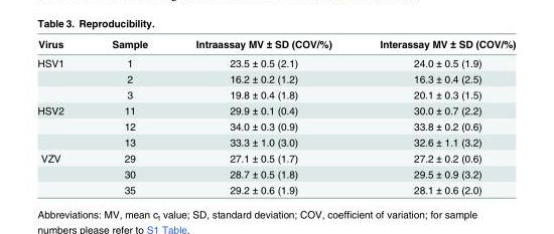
<table><thead><tr><td>Virus</td><td>Sample</td><td>Intraassay MV ± SD (COV/%)</td><td>Interassay MV ± SD (COV/%)</td></tr></thead><tbody><tr><td rowspan="3">HSV1</td><td>1</td><td>23.5 ± 0.5 (2.1)</td><td>24.0 ± 0.5 (1.9)</td></tr><tr><td>2</td><td>16.2 ± 0.2 (1.2)</td><td>16.3 ± 0.4 (2.5)</td></tr><tr><td>3</td><td>19.8 ± 0.4 (1.8)</td><td>20.1 ± 0.3 (1.5)</td></tr><tr><td rowspan="3">HSV2</td><td>11</td><td>29.9 ± 0.1 (0.4)</td><td>30.0 ± 0.7 (2.2)</td></tr><tr><td>12</td><td>34.0 ± 0.3 (0.9)</td><td>33.8 ± 0.2 (0.6)</td></tr><tr><td>13</td><td>33.3 ± 1.0 (3.0)</td><td>32.6 ± 1.1 (3.2)</td></tr><tr><td rowspan="3">VZV</td><td>29</td><td>27.1 ± 0.5 (1.7)</td><td>27.2 ± 0.2 (0.6)</td></tr><tr><td>30</td><td>28.7 ± 0.5 (1.8)</td><td>29.5 ± 0.9 (3.2)</td></tr><tr><td>35</td><td>29.2 ± 0.6 (1.9)</td><td>28.1 ± 0.6 (2.0)</td></tr></tbody></table>